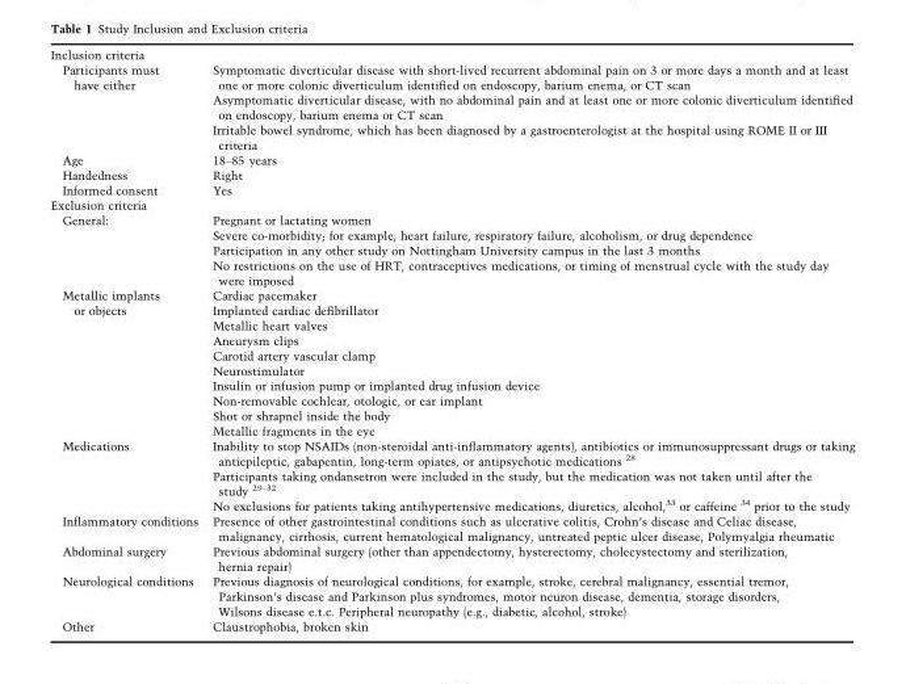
<table><tbody><tr><td colspan="2">Inclusion criteria</td></tr><tr><td rowspan="3">Participants must have either</td><td>Symptomatic diverticular disease with short-lived recurrent abdominal pain on 3 or more days a month and at least one or more colonic diverticulum identified on endoscopy, barium enema, or CT scan</td></tr><tr><td>Asymptomatic diverticular disease, with no abdominal pain and at least one or more colonic diverticulum identified on endoscopy, barium enema or CT scan</td></tr><tr><td>Irritable bowel syndrome, which has been diagnosed by a gastroenterologist at the hospital using ROME II or III criteria</td></tr><tr><td>Age</td><td>18–85 years</td></tr><tr><td>Handedness</td><td>Right</td></tr><tr><td>Informed consent</td><td>Yes</td></tr><tr><td colspan="2">Exclusion criteria</td></tr><tr><td rowspan="4">General:</td><td>Pregnant or lactating women</td></tr><tr><td>Severe co-morbidity; for example, heart failure, respiratory failure, alcoholism, or drug dependence</td></tr><tr><td>Participation in any other study on Nottingham University campus in the last 3 months</td></tr><tr><td>No restrictions on the use of HRT, contraceptives medications, or timing of menstrual cycle with the study day were imposed</td></tr><tr><td rowspan="10">Metallic implants or objects</td><td>Cardiac pacemaker</td></tr><tr><td>Implanted cardiac defibrillator</td></tr><tr><td>Metallic heart valves</td></tr><tr><td>Aneurysm clips</td></tr><tr><td>Carotid artery vascular clamp</td></tr><tr><td>Neurostimulator</td></tr><tr><td>Insulin or infusion pump or implanted drug infusion device</td></tr><tr><td>Non-removable cochlear, otologic, or ear implant</td></tr><tr><td>Shot or shrapnel inside the body</td></tr><tr><td>Metallic fragments in the eye</td></tr><tr><td rowspan="3">Medications</td><td>Inability to stop NSAIDs (non-steroidal anti-inflammatory agents), antibiotics or immunosuppressant drugs or taking antiepileptic, gabapentin, long-term opiates, or antipsychotic medications 28</td></tr><tr><td>Participants taking ondansetron were included in the study, but the medication was not taken until after the study 29–32</td></tr><tr><td>No exclusions for patients taking antihypertensive medications, diuretics, alcohol,<sup>33</sup> or caffeine 34 prior to the study</td></tr><tr><td>Inflammatory conditions</td><td>Presence of other gastrointestinal conditions such as ulcerative colitis, Crohn’s disease and Celiac disease, malignancy, cirrhosis, current hematological malignancy, untreated peptic ulcer disease, Polymyalgia rheumatic</td></tr><tr><td>Abdominal surgery</td><td>Previous abdominal surgery (other than appendectomy, hysterectomy, cholecystectomy and sterilization, hernia repair)</td></tr><tr><td>Neurological conditions</td><td>Previous diagnosis of neurological conditions, for example, stroke, cerebral malignancy, essential tremor, Parkinson’s disease and Parkinson plus syndromes, motor neuron disease, dementia, storage disorders, Wilsons disease e.t.c. Peripheral neuropathy (e.g., diabetic, alcohol, stroke)</td></tr><tr><td>Other</td><td>Claustrophobia, broken skin</td></tr></tbody></table>